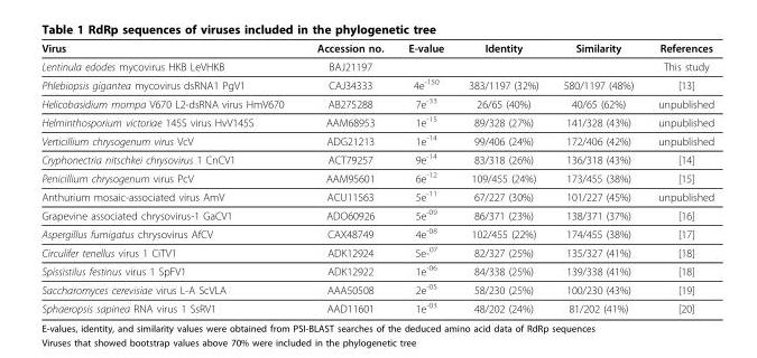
<table><thead><tr><td>Virus</td><td>Accession no.</td><td>E-value</td><td>Identity</td><td>Similarity</td><td>References</td></tr></thead><tbody><tr><td>Lentinula edodes mycovirus HKB LeVHKB</td><td>BAJ21197</td><td></td><td></td><td></td><td>This study</td></tr><tr><td>Phlebiopsis gigantea mycovirus dsRNA1 PgV1</td><td>CAJ34333</td><td>4e<sup>-150</sup></td><td>383/1197 (32%)</td><td>580/1197 (48%)</td><td>[13]</td></tr><tr><td>Helicobasidium mompa V670 L2-dsRNA virus HmV670</td><td>AB275288</td><td>7e<sup>-33</sup></td><td>26/65 (40%)</td><td>40/65 (62%)</td><td>unpublished</td></tr><tr><td>Helminthosporium victoriae 145S virus HvV145S</td><td>AAM68953</td><td>1e<sup>-15</sup></td><td>89/328 (27%)</td><td>141/328 (43%)</td><td>unpublished</td></tr><tr><td>Verticillium chrysogenum virus VcV</td><td>ADG21213</td><td>1e<sup>-14</sup></td><td>99/406 (24%)</td><td>172/406 (42%)</td><td>unpublished</td></tr><tr><td>Cryphonectria nitschkei chrysovirus 1 CnCV1</td><td>ACT79257</td><td>9e<sup>-14</sup></td><td>83/318 (26%)</td><td>136/318 (43%)</td><td>[14]</td></tr><tr><td>Penicillium chrysogenum virus PcV</td><td>AAM95601</td><td>6e<sup>-12</sup></td><td>109/455 (24%)</td><td>173/455 (38%)</td><td>[15]</td></tr><tr><td>Anthurium mosaic-associated virus AmV</td><td>ACU11563</td><td>5e<sup>-11</sup></td><td>67/227 (30%)</td><td>101/227 (45%)</td><td>unpublished</td></tr><tr><td>Grapevine associated chrysovirus-1 GaCV1</td><td>ADO60926</td><td>5e<sup>-09</sup></td><td>86/371 (23%)</td><td>138/371 (37%)</td><td>[16]</td></tr><tr><td>Aspergillus fumigatus chrysovirus AfCV</td><td>CAX48749</td><td>4e<sup>-08</sup></td><td>102/455 (22%)</td><td>174/455 (38%)</td><td>[17]</td></tr><tr><td>Circulifer tenellus virus 1 CiTV1</td><td>ADK12924</td><td>5e-<sup>07</sup></td><td>82/327 (25%)</td><td>135/327 (41%)</td><td>[18]</td></tr><tr><td>Spissistilus festinus virus 1 SpFV1</td><td>ADK12922</td><td>1e<sup>-06</sup></td><td>84/338 (25%)</td><td>139/338 (41%)</td><td>[18]</td></tr><tr><td>Saccharomyces cerevisiae virus L-A ScVLA</td><td>AAA50508</td><td>2e<sup>-05</sup></td><td>58/230 (25%)</td><td>100/230 (43%)</td><td>[19]</td></tr><tr><td>Sphaeropsis sapinea RNA virus 1 SsRV1</td><td>AAD11601</td><td>1e<sup>-03</sup></td><td>48/202 (24%)</td><td>81/202 (41%)</td><td>[20]</td></tr></tbody></table>